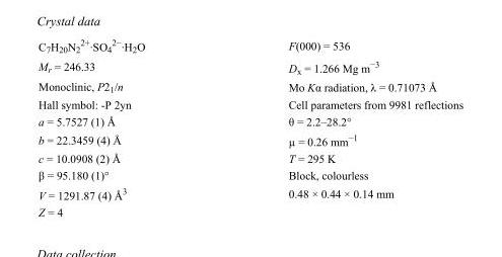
<table><tbody><tr><td>C<sub>7</sub>H<sub>20</sub>N<sub>2</sub> <sup>2+</sup>·SO<sub>4</sub> <sup>2−</sup>·H<sub>2</sub>O</td><td>F(000) = 536</td></tr><tr><td>M<sub>r</sub> = 246.33</td><td>D<sub>x</sub> = 1.266 Mg m<sup>−3</sup></td></tr><tr><td>Monoclinic, P2<sub>1</sub>/n</td><td>Mo Kα radiation, λ = 0.71073 Å</td></tr><tr><td>Hall symbol: -P 2yn</td><td>Cell parameters from 9981 reflections</td></tr><tr><td>a = 5.7527 (1) Å</td><td>θ = 2.2–28.2°</td></tr><tr><td>b = 22.3459 (4) Å</td><td>µ = 0.26 mm<sup>−1</sup></td></tr><tr><td>c = 10.0908 (2) Å</td><td>T = 295 K</td></tr><tr><td>β = 95.180 (1)°</td><td>Block, colourless</td></tr><tr><td>V = 1291.87 (4) Å<sup>3</sup></td><td>0.48 × 0.44 × 0.14 mm</td></tr><tr><td>Z = 4</td><td></td></tr></tbody></table>